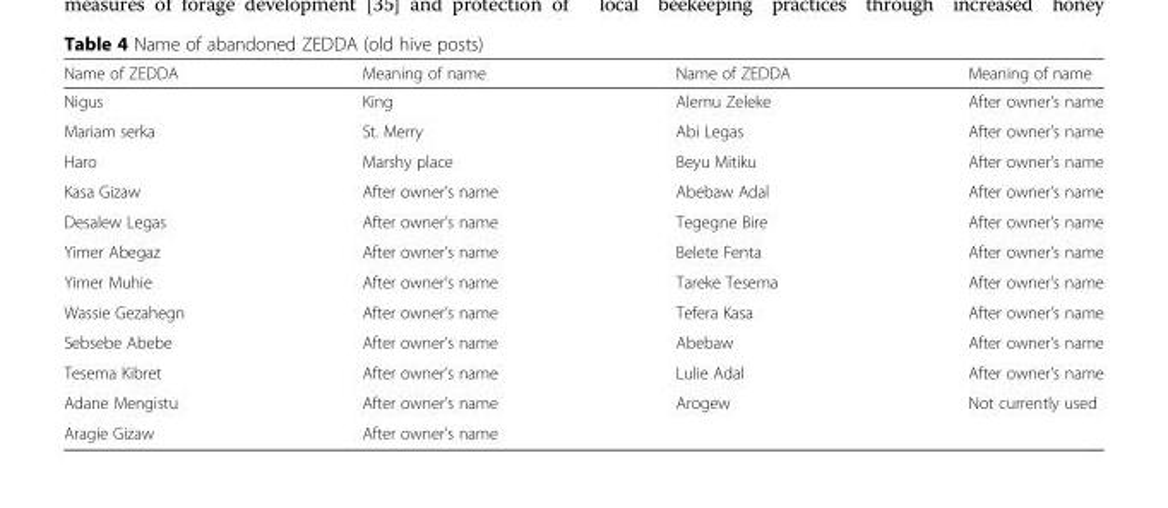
<table><thead><tr><td>Name of ZEDDA</td><td>Meaning of name</td><td>Name of ZEDDA</td><td>Meaning of name</td></tr></thead><tbody><tr><td>Nigus</td><td>King</td><td>Alemu Zeleke</td><td>After owner’s name</td></tr><tr><td>Mariam serka</td><td>St. Merry</td><td>Abi Legas</td><td>After owner’s name</td></tr><tr><td>Haro</td><td>Marshy place</td><td>Beyu Mitiku</td><td>After owner’s name</td></tr><tr><td>Kasa Gizaw</td><td>After owner’s name</td><td>Abebaw Adal</td><td>After owner’s name</td></tr><tr><td>Desalew Legas</td><td>After owner’s name</td><td>Tegegne Bire</td><td>After owner’s name</td></tr><tr><td>Yimer Abegaz</td><td>After owner’s name</td><td>Belete Fenta</td><td>After owner’s name</td></tr><tr><td>Yimer Muhie</td><td>After owner’s name</td><td>Tareke Tesema</td><td>After owner’s name</td></tr><tr><td>Wassie Gezahegn</td><td>After owner’s name</td><td>Tefera Kasa</td><td>After owner’s name</td></tr><tr><td>Sebsebe Abebe</td><td>After owner’s name</td><td>Abebaw</td><td>After owner’s name</td></tr><tr><td>Tesema Kibret</td><td>After owner’s name</td><td>Lulie Adal</td><td>After owner’s name</td></tr><tr><td>Adane Mengistu</td><td>After owner’s name</td><td>Arogew</td><td>Not currently used</td></tr><tr><td>Aragie Gizaw</td><td>After owner’s name</td><td></td><td></td></tr></tbody></table>